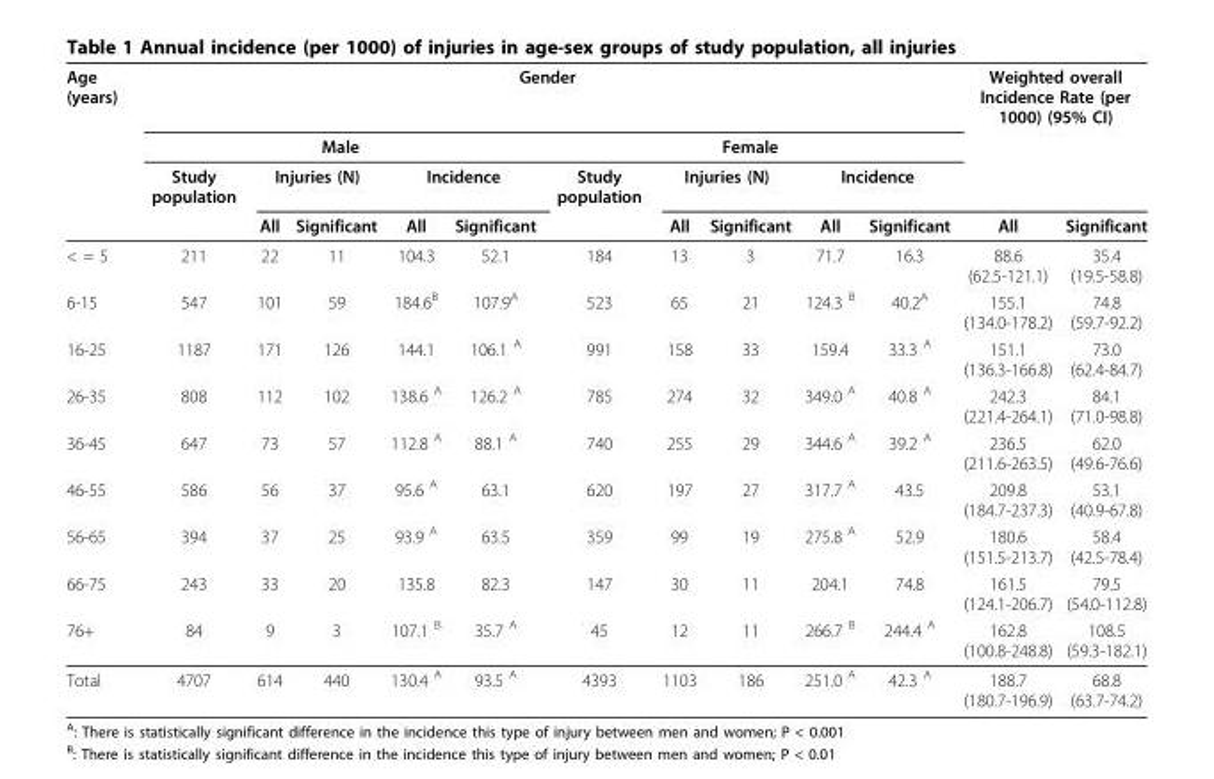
<table><thead><tr><td rowspan="4">Age (years)</td><td colspan="10">Gender</td><td colspan="2">Weighted overall Incidence Rate (per 1000) (95% CI)</td></tr><tr><td colspan="5">Male</td><td colspan="5">Female</td><td rowspan="3">All</td><td rowspan="3">Significant</td></tr><tr><td rowspan="2">Study population</td><td colspan="2">Injuries (N)</td><td colspan="2">Incidence</td><td rowspan="2">Study population</td><td colspan="2">Injuries (N)</td><td colspan="2">Incidence</td></tr><tr><td>All</td><td>Significant</td><td>All</td><td>Significant</td><td>All</td><td>Significant</td><td>All</td><td>Significant</td></tr></thead><tbody><tr><td>&lt; = 5</td><td>211</td><td>22</td><td>11</td><td>104.3</td><td>52.1</td><td>184</td><td>13</td><td>3</td><td>71.7</td><td>16.3</td><td>88.6 (62.5-121.1)</td><td>35.4 (19.5-58.8)</td></tr><tr><td>6-15</td><td>547</td><td>101</td><td>59</td><td>184.6<sup>B</sup></td><td>107.9<sup>A</sup></td><td>523</td><td>65</td><td>21</td><td>124.3 <sup>B</sup></td><td>40.2<sup>A</sup></td><td>155.1 (134.0-178.2)</td><td>74.8 (59.7-92.2)</td></tr><tr><td>16-25</td><td>1187</td><td>171</td><td>126</td><td>144.1</td><td>106.1 <sup>A</sup></td><td>991</td><td>158</td><td>33</td><td>159.4</td><td>33.3 <sup>A</sup></td><td>151.1 (136.3-166.8)</td><td>73.0 (62.4-84.7)</td></tr><tr><td>26-35</td><td>808</td><td>112</td><td>102</td><td>138.6 <sup>A</sup></td><td>126.2 <sup>A</sup></td><td>785</td><td>274</td><td>32</td><td>349.0 <sup>A</sup></td><td>40.8 <sup>A</sup></td><td>242.3 (221.4-264.1)</td><td>84.1 (71.0-98.8)</td></tr><tr><td>36-45</td><td>647</td><td>73</td><td>57</td><td>112.8 <sup>A</sup></td><td>88.1 <sup>A</sup></td><td>740</td><td>255</td><td>29</td><td>344.6 <sup>A</sup></td><td>39.2 <sup>A</sup></td><td>236.5 (211.6-263.5)</td><td>62.0 (49.6-76.6)</td></tr><tr><td>46-55</td><td>586</td><td>56</td><td>37</td><td>95.6 <sup>A</sup></td><td>63.1</td><td>620</td><td>197</td><td>27</td><td>317.7 <sup>A</sup></td><td>43.5</td><td>209.8 (184.7-237.3)</td><td>53.1 (40.9-67.8)</td></tr><tr><td>56-65</td><td>394</td><td>37</td><td>25</td><td>93.9 <sup>A</sup></td><td>63.5</td><td>359</td><td>99</td><td>19</td><td>275.8 <sup>A</sup></td><td>52.9</td><td>180.6 (151.5-213.7)</td><td>58.4 (42.5-78.4)</td></tr><tr><td>66-75</td><td>243</td><td>33</td><td>20</td><td>135.8</td><td>82.3</td><td>147</td><td>30</td><td>11</td><td>204.1</td><td>74.8</td><td>161.5 (124.1-206.7)</td><td>79.5 (54.0-112.8)</td></tr><tr><td>76+</td><td>84</td><td>9</td><td>3</td><td>107.1 <sup>B</sup></td><td>35.7 <sup>A</sup></td><td>45</td><td>12</td><td>11</td><td>266.7 <sup>B</sup></td><td>244.4 <sup>A</sup></td><td>162.8 (100.8-248.8)</td><td>108.5 (59.3-182.1)</td></tr><tr><td>Total</td><td>4707</td><td>614</td><td>440</td><td>130.4 <sup>A</sup></td><td>93.5 <sup>A</sup></td><td>4393</td><td>1103</td><td>186</td><td>251.0 <sup>A</sup></td><td>42.3 <sup>A</sup></td><td>188.7 (180.7-196.9)</td><td>68.8 (63.7-74.2)</td></tr></tbody></table>